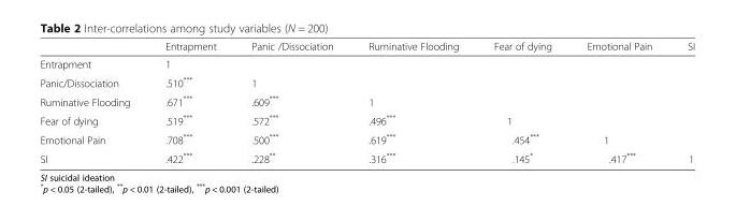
<table><thead><tr><td></td><td>Entrapment</td><td>Panic /Dissociation</td><td>Ruminative Flooding</td><td>Fear of dying</td><td>Emotional Pain</td><td>SI</td></tr></thead><tbody><tr><td>Entrapment</td><td>1</td><td></td><td></td><td></td><td></td><td></td></tr><tr><td>Panic/Dissociation</td><td>.510***</td><td>1</td><td></td><td></td><td></td><td></td></tr><tr><td>Ruminative Flooding</td><td>.671***</td><td>.609***</td><td>1</td><td></td><td></td><td></td></tr><tr><td>Fear of dying</td><td>.519***</td><td>.572***</td><td>.496***</td><td>1</td><td></td><td></td></tr><tr><td>Emotional Pain</td><td>.708***</td><td>.500***</td><td>.619***</td><td>.454***</td><td>1</td><td></td></tr><tr><td>SI</td><td>.422***</td><td>.228**</td><td>.316***</td><td>.145*</td><td>.417***</td><td>1</td></tr></tbody></table>